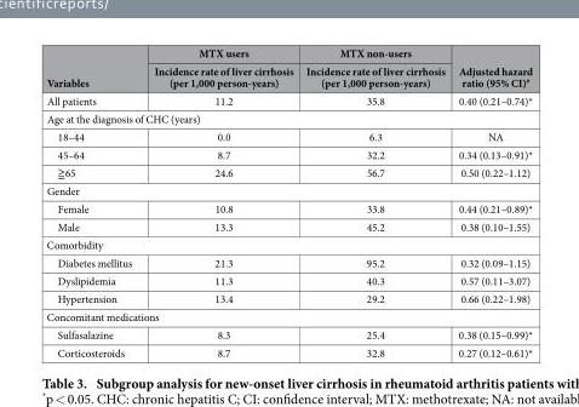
<table><thead><tr><td rowspan="2">Variables</td><td rowspan="2">MTX users Incidence rate of liver cirrhosis (per 1,000 person-years)</td><td rowspan="2">MTX non-users Incidence rate of liver cirrhosis (per 1,000 person-years)</td><td rowspan="2">Adjusted hazard ratio (95% CI)#</td></tr><tr></tr></thead><tbody><tr><td>All patients</td><td>11.2</td><td>35.8</td><td>0.40 (0.21–0.74)*</td></tr><tr><td colspan="4">Age at the diagnosis of CHC (years)</td></tr><tr><td>18–44</td><td>0.0</td><td>6.3</td><td>NA</td></tr><tr><td>45–64</td><td>8.7</td><td>32.2</td><td>0.34 (0.13–0.91)*</td></tr><tr><td>≧ 65</td><td>24.6</td><td>56.7</td><td>0.50 (0.22–1.12)</td></tr><tr><td colspan="4">Gender</td></tr><tr><td>Female</td><td>10.8</td><td>33.8</td><td>0.44 (0.21–0.89)*</td></tr><tr><td>Male</td><td>13.3</td><td>45.2</td><td>0.38 (0.10–1.55)</td></tr><tr><td colspan="4">Comorbidity</td></tr><tr><td>Diabetes mellitus</td><td>21.3</td><td>95.2</td><td>0.32 (0.09–1.15)</td></tr><tr><td>Dyslipidemia</td><td>11.3</td><td>40.3</td><td>0.57 (0.11–3.07)</td></tr><tr><td>Hypertension</td><td>13.4</td><td>29.2</td><td>0.66 (0.22–1.98)</td></tr><tr><td colspan="4">Concomitant medications</td></tr><tr><td>Sulfasalazine</td><td>8.3</td><td>25.4</td><td>0.38 (0.15–0.99)*</td></tr><tr><td>Corticosteroids</td><td>8.7</td><td>32.8</td><td>0.27 (0.12–0.61)*</td></tr></tbody></table>